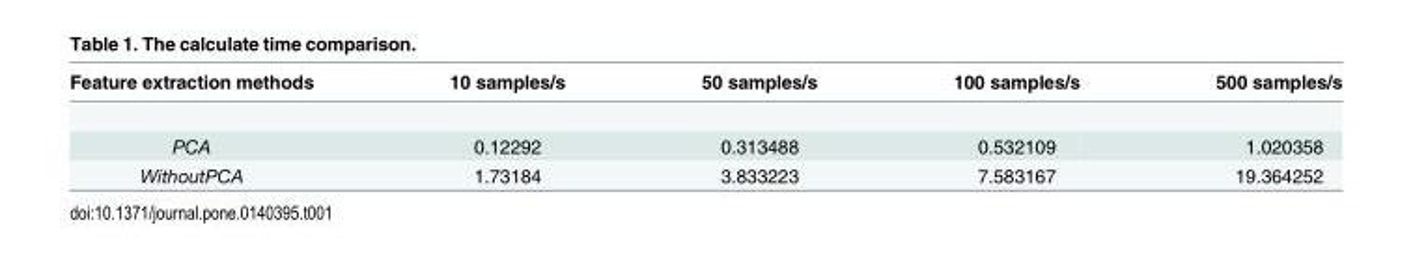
<table><thead><tr><td>Feature extraction methods</td><td>10 samples/s</td><td>50 samples/s</td><td>100 samples/s</td><td>500 samples/s</td></tr></thead><tbody><tr><td>PCA</td><td>0.12292</td><td>0.313488</td><td>0.532109</td><td>1.020358</td></tr><tr><td>WithoutPCA</td><td>1.73184</td><td>3.833223</td><td>7.583167</td><td>19.364252</td></tr></tbody></table>